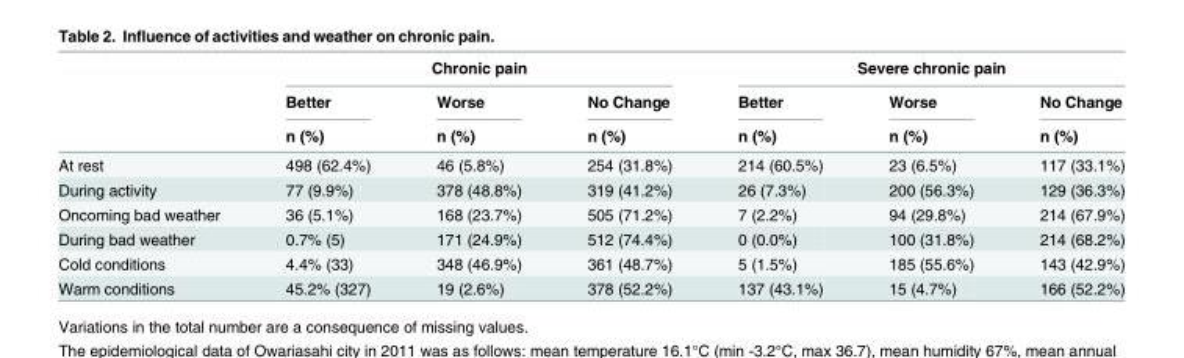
<table><thead><tr><td rowspan="3"></td><td colspan="3">Chronic pain</td><td colspan="3">Severe chronic pain</td></tr><tr><td rowspan="2">Better n (%)</td><td rowspan="2">Worse n (%)</td><td rowspan="2">No Change n (%)</td><td rowspan="2">Better n (%)</td><td rowspan="2">Worse n (%)</td><td rowspan="2">No Change n (%)</td></tr><tr></tr></thead><tbody><tr><td>At rest</td><td>498 (62.4%)</td><td>46 (5.8%)</td><td>254 (31.8%)</td><td>214 (60.5%)</td><td>23 (6.5%)</td><td>117 (33.1%)</td></tr><tr><td>During activity</td><td>77 (9.9%)</td><td>378 (48.8%)</td><td>319 (41.2%)</td><td>26 (7.3%)</td><td>200 (56.3%)</td><td>129 (36.3%)</td></tr><tr><td>Oncoming bad weather</td><td>36 (5.1%)</td><td>168 (23.7%)</td><td>505 (71.2%)</td><td>7 (2.2%)</td><td>94 (29.8%)</td><td>214 (67.9%)</td></tr><tr><td>During bad weather</td><td>0.7% (5)</td><td>171 (24.9%)</td><td>512 (74.4%)</td><td>0 (0.0%)</td><td>100 (31.8%)</td><td>214 (68.2%)</td></tr><tr><td>Cold conditions</td><td>4.4% (33)</td><td>348 (46.9%)</td><td>361 (48.7%)</td><td>5 (1.5%)</td><td>185 (55.6%)</td><td>143 (42.9%)</td></tr><tr><td>Warm conditions</td><td>45.2% (327)</td><td>19 (2.6%)</td><td>378 (52.2%)</td><td>137 (43.1%)</td><td>15 (4.7%)</td><td>166 (52.2%)</td></tr></tbody></table>